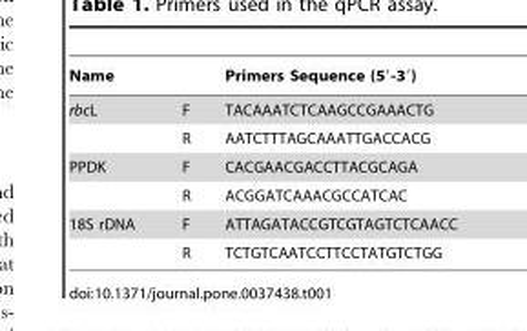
<table><thead><tr><td>Name</td><td></td><td>Primers Sequence (5′-3′)</td></tr></thead><tbody><tr><td rowspan="2">rbcL</td><td>F</td><td>TACAAATCTCAAGCCGAAACTG</td></tr><tr><td>R</td><td>AATCTTTAGCAAATTGACCACG</td></tr><tr><td rowspan="2">PPDK</td><td>F</td><td>CACGAACGACCTTACGCAGA</td></tr><tr><td>R</td><td>ACGGATCAAACGCCATCAC</td></tr><tr><td rowspan="2">18S rDNA</td><td>F</td><td>ATTAGATACCGTCGTAGTCTCAACC</td></tr><tr><td>R</td><td>TCTGTCAATCCTTCCTATGTCTGG</td></tr></tbody></table>